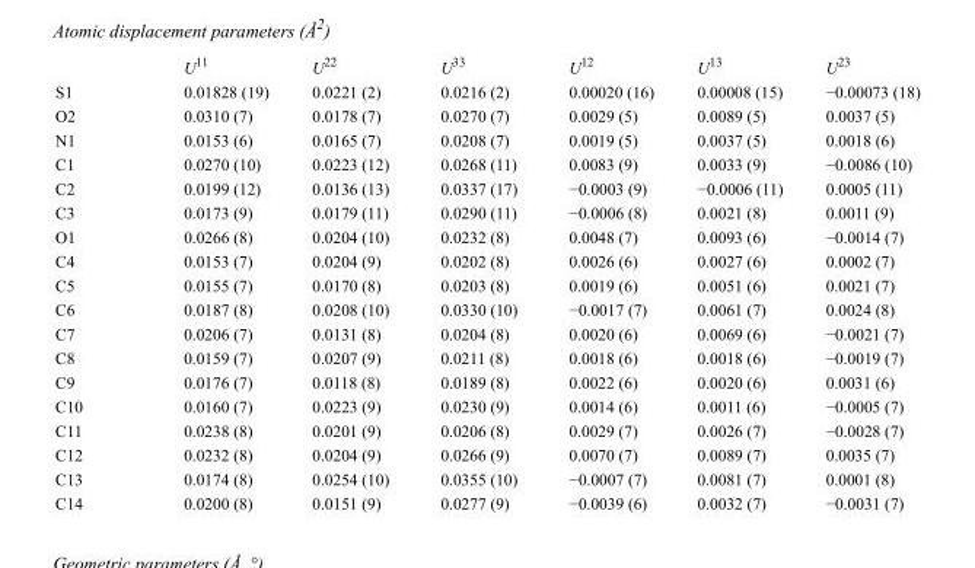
<table><thead><tr><td></td><td>U<sup>11</sup></td><td>U<sup>22</sup></td><td>U<sup>33</sup></td><td>U<sup>12</sup></td><td>U<sup>13</sup></td><td>U<sup>23</sup></td></tr></thead><tbody><tr><td>S1</td><td>0.01828 (19)</td><td>0.0221 (2)</td><td>0.0216 (2)</td><td>0.00020 (16)</td><td>0.00008 (15)</td><td>−0.00073 (18)</td></tr><tr><td>O2</td><td>0.0310 (7)</td><td>0.0178 (7)</td><td>0.0270 (7)</td><td>0.0029 (5)</td><td>0.0089 (5)</td><td>0.0037 (5)</td></tr><tr><td>N1</td><td>0.0153 (6)</td><td>0.0165 (7)</td><td>0.0208 (7)</td><td>0.0019 (5)</td><td>0.0037 (5)</td><td>0.0018 (6)</td></tr><tr><td>C1</td><td>0.0270 (10)</td><td>0.0223 (12)</td><td>0.0268 (11)</td><td>0.0083 (9)</td><td>0.0033 (9)</td><td>−0.0086 (10)</td></tr><tr><td>C2</td><td>0.0199 (12)</td><td>0.0136 (13)</td><td>0.0337 (17)</td><td>−0.0003 (9)</td><td>−0.0006 (11)</td><td>0.0005 (11)</td></tr><tr><td>C3</td><td>0.0173 (9)</td><td>0.0179 (11)</td><td>0.0290 (11)</td><td>−0.0006 (8)</td><td>0.0021 (8)</td><td>0.0011 (9)</td></tr><tr><td>O1</td><td>0.0266 (8)</td><td>0.0204 (10)</td><td>0.0232 (8)</td><td>0.0048 (7)</td><td>0.0093 (6)</td><td>−0.0014 (7)</td></tr><tr><td>C4</td><td>0.0153 (7)</td><td>0.0204 (9)</td><td>0.0202 (8)</td><td>0.0026 (6)</td><td>0.0027 (6)</td><td>0.0002 (7)</td></tr><tr><td>C5</td><td>0.0155 (7)</td><td>0.0170 (8)</td><td>0.0203 (8)</td><td>0.0019 (6)</td><td>0.0051 (6)</td><td>0.0021 (7)</td></tr><tr><td>C6</td><td>0.0187 (8)</td><td>0.0208 (10)</td><td>0.0330 (10)</td><td>−0.0017 (7)</td><td>0.0061 (7)</td><td>0.0024 (8)</td></tr><tr><td>C7</td><td>0.0206 (7)</td><td>0.0131 (8)</td><td>0.0204 (8)</td><td>0.0020 (6)</td><td>0.0069 (6)</td><td>−0.0021 (7)</td></tr><tr><td>C8</td><td>0.0159 (7)</td><td>0.0207 (9)</td><td>0.0211 (8)</td><td>0.0018 (6)</td><td>0.0018 (6)</td><td>−0.0019 (7)</td></tr><tr><td>C9</td><td>0.0176 (7)</td><td>0.0118 (8)</td><td>0.0189 (8)</td><td>0.0022 (6)</td><td>0.0020 (6)</td><td>0.0031 (6)</td></tr><tr><td>C10</td><td>0.0160 (7)</td><td>0.0223 (9)</td><td>0.0230 (9)</td><td>0.0014 (6)</td><td>0.0011 (6)</td><td>−0.0005 (7)</td></tr><tr><td>C11</td><td>0.0238 (8)</td><td>0.0201 (9)</td><td>0.0206 (8)</td><td>0.0029 (7)</td><td>0.0026 (7)</td><td>−0.0028 (7)</td></tr><tr><td>C12</td><td>0.0232 (8)</td><td>0.0204 (9)</td><td>0.0266 (9)</td><td>0.0070 (7)</td><td>0.0089 (7)</td><td>0.0035 (7)</td></tr><tr><td>C13</td><td>0.0174 (8)</td><td>0.0254 (10)</td><td>0.0355 (10)</td><td>−0.0007 (7)</td><td>0.0081 (7)</td><td>0.0001 (8)</td></tr><tr><td>C14</td><td>0.0200 (8)</td><td>0.0151 (9)</td><td>0.0277 (9)</td><td>−0.0039 (6)</td><td>0.0032 (7)</td><td>−0.0031 (7)</td></tr></tbody></table>